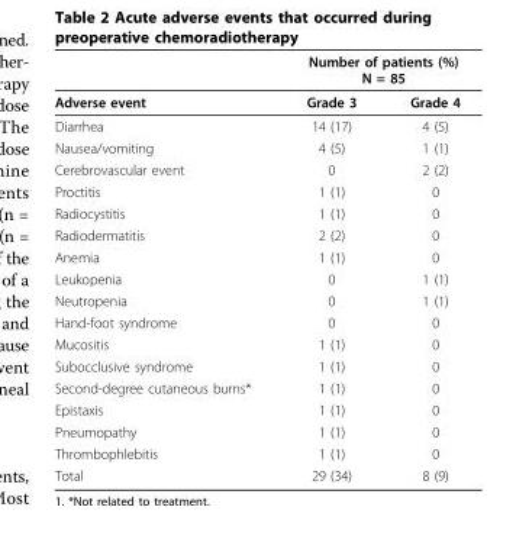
<table><thead><tr><td rowspan="2">Adverse event</td><td colspan="2">Number of patients (%) N = 85</td></tr><tr><td>Grade 3</td><td>Grade 4</td></tr></thead><tbody><tr><td>Diarrhea</td><td>14 (17)</td><td>4 (5)</td></tr><tr><td>Nausea/vomiting</td><td>4 (5)</td><td>1 (1)</td></tr><tr><td>Cerebrovascular event</td><td>0</td><td>2 (2)</td></tr><tr><td>Proctitis</td><td>1 (1)</td><td>0</td></tr><tr><td>Radiocystitis</td><td>1 (1)</td><td>0</td></tr><tr><td>Radiodermatitis</td><td>2 (2)</td><td>0</td></tr><tr><td>Anemia</td><td>1 (1)</td><td>0</td></tr><tr><td>Leukopenia</td><td>0</td><td>1 (1)</td></tr><tr><td>Neutropenia</td><td>0</td><td>1 (1)</td></tr><tr><td>Hand-foot syndrome</td><td>0</td><td>0</td></tr><tr><td>Mucositis</td><td>1 (1)</td><td>0</td></tr><tr><td>Subocclusive syndrome</td><td>1 (1)</td><td>0</td></tr><tr><td>Second-degree cutaneous burns*</td><td>1 (1)</td><td>0</td></tr><tr><td>Epistaxis</td><td>1 (1)</td><td>0</td></tr><tr><td>Pneumopathy</td><td>1 (1)</td><td>0</td></tr><tr><td>Thrombophlebitis</td><td>1 (1)</td><td>0</td></tr><tr><td>Total</td><td>29 (34)</td><td>8 (9)</td></tr></tbody></table>